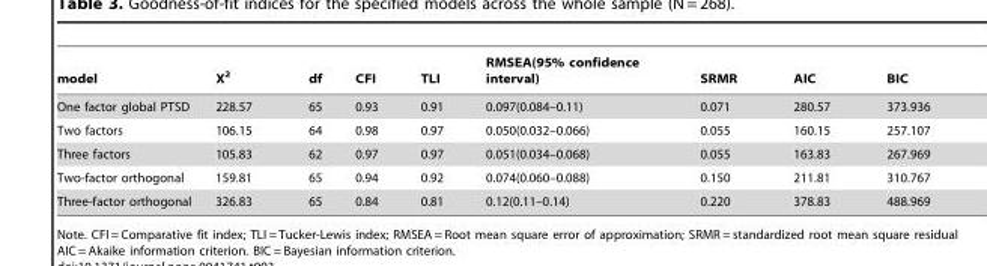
<table><thead><tr><td>model</td><td>X<sup>2</sup></td><td>df</td><td>CFI</td><td>TLI</td><td>RMSEA(95% confidence interval)</td><td>SRMR</td><td>AIC</td><td>BIC</td></tr></thead><tbody><tr><td>One factor global PTSD</td><td>228.57</td><td>65</td><td>0.93</td><td>0.91</td><td>0.097(0.084–0.11)</td><td>0.071</td><td>280.57</td><td>373.936</td></tr><tr><td>Two factors</td><td>106.15</td><td>64</td><td>0.98</td><td>0.97</td><td>0.050(0.032–0.066)</td><td>0.055</td><td>160.15</td><td>257.107</td></tr><tr><td>Three factors</td><td>105.83</td><td>62</td><td>0.97</td><td>0.97</td><td>0.051(0.034–0.068)</td><td>0.055</td><td>163.83</td><td>267.969</td></tr><tr><td>Two-factor orthogonal</td><td>159.81</td><td>65</td><td>0.94</td><td>0.92</td><td>0.074(0.060–0.088)</td><td>0.150</td><td>211.81</td><td>310.767</td></tr><tr><td>Three-factor orthogonal</td><td>326.83</td><td>65</td><td>0.84</td><td>0.81</td><td>0.12(0.11–0.14)</td><td>0.220</td><td>378.83</td><td>488.969</td></tr></tbody></table>